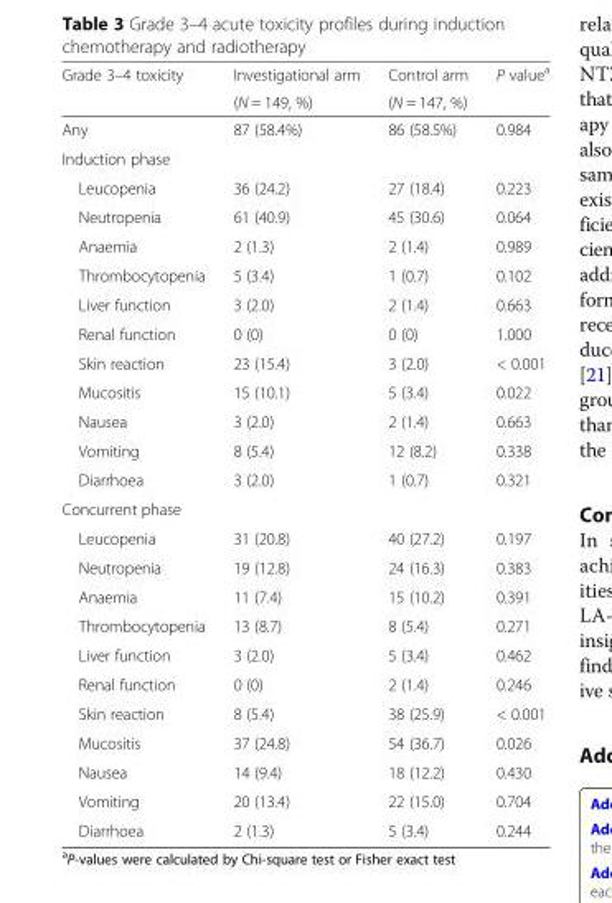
<table><thead><tr><td rowspan="2">Grade 3–4 toxicity</td><td rowspan="2">Investigational arm (N = 149, %)</td><td rowspan="2">Control arm (N = 147, %)</td><td rowspan="2">P value<sup>a</sup></td></tr><tr></tr></thead><tbody><tr><td>Any</td><td>87 (58.4%)</td><td>86 (58.5%)</td><td>0.984</td></tr><tr><td colspan="4">Induction phase</td></tr><tr><td>Leucopenia</td><td>36 (24.2)</td><td>27 (18.4)</td><td>0.223</td></tr><tr><td>Neutropenia</td><td>61 (40.9)</td><td>45 (30.6)</td><td>0.064</td></tr><tr><td>Anaemia</td><td>2 (1.3)</td><td>2 (1.4)</td><td>0.989</td></tr><tr><td>Thrombocytopenia</td><td>5 (3.4)</td><td>1 (0.7)</td><td>0.102</td></tr><tr><td>Liver function</td><td>3 (2.0)</td><td>2 (1.4)</td><td>0.663</td></tr><tr><td>Renal function</td><td>0 (0)</td><td>0 (0)</td><td>1.000</td></tr><tr><td>Skin reaction</td><td>23 (15.4)</td><td>3 (2.0)</td><td>&lt; 0.001</td></tr><tr><td>Mucositis</td><td>15 (10.1)</td><td>5 (3.4)</td><td>0.022</td></tr><tr><td>Nausea</td><td>3 (2.0)</td><td>2 (1.4)</td><td>0.663</td></tr><tr><td>Vomiting</td><td>8 (5.4)</td><td>12 (8.2)</td><td>0.338</td></tr><tr><td>Diarrhoea</td><td>3 (2.0)</td><td>1 (0.7)</td><td>0.321</td></tr><tr><td colspan="4">Concurrent phase</td></tr><tr><td>Leucopenia</td><td>31 (20.8)</td><td>40 (27.2)</td><td>0.197</td></tr><tr><td>Neutropenia</td><td>19 (12.8)</td><td>24 (16.3)</td><td>0.383</td></tr><tr><td>Anaemia</td><td>11 (7.4)</td><td>15 (10.2)</td><td>0.391</td></tr><tr><td>Thrombocytopenia</td><td>13 (8.7)</td><td>8 (5.4)</td><td>0.271</td></tr><tr><td>Liver function</td><td>3 (2.0)</td><td>5 (3.4)</td><td>0.462</td></tr><tr><td>Renal function</td><td>0 (0)</td><td>2 (1.4)</td><td>0.246</td></tr><tr><td>Skin reaction</td><td>8 (5.4)</td><td>38 (25.9)</td><td>&lt; 0.001</td></tr><tr><td>Mucositis</td><td>37 (24.8)</td><td>54 (36.7)</td><td>0.026</td></tr><tr><td>Nausea</td><td>14 (9.4)</td><td>18 (12.2)</td><td>0.430</td></tr><tr><td>Vomiting</td><td>20 (13.4)</td><td>22 (15.0)</td><td>0.704</td></tr><tr><td>Diarrhoea</td><td>2 (1.3)</td><td>5 (3.4)</td><td>0.244</td></tr></tbody></table>